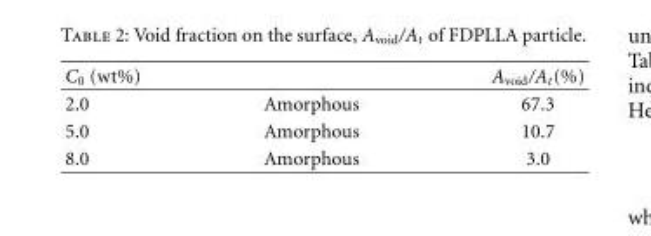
<table><thead><tr><td>C<sub>0</sub> (wt%)</td><td></td><td>A<sub>void</sub>/A<sub>t</sub>(%)</td></tr></thead><tbody><tr><td>2.0</td><td>Amorphous</td><td>67.3</td></tr><tr><td>5.0</td><td>Amorphous</td><td>10.7</td></tr><tr><td>8.0</td><td>Amorphous</td><td>3.0</td></tr></tbody></table>